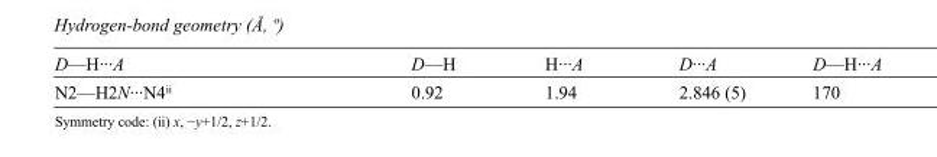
<table><tbody><tr><td>D—H···A</td><td>D—H</td><td>H···A</td><td>D···A</td><td>D—H···A</td></tr><tr><td>N2—H2N···N4<sup>ii</sup></td><td>0.92</td><td>1.94</td><td>2.846 (5)</td><td>170</td></tr></tbody></table>